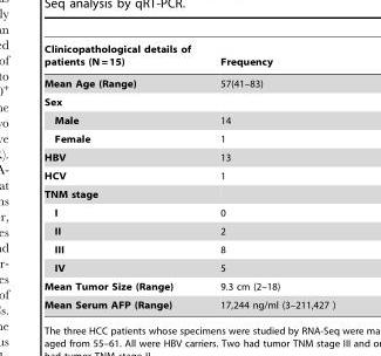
<table><thead><tr><td>Clinicopathological details of patients (N = 15)</td><td>Frequency</td></tr></thead><tbody><tr><td>Mean Age (Range)</td><td>57(41–83)</td></tr><tr><td colspan="2">Sex</td></tr><tr><td>Male</td><td>14</td></tr><tr><td>Female</td><td>1</td></tr><tr><td>HBV</td><td>13</td></tr><tr><td>HCV</td><td>1</td></tr><tr><td colspan="2">TNM stage</td></tr><tr><td>I</td><td>0</td></tr><tr><td>II</td><td>2</td></tr><tr><td>III</td><td>8</td></tr><tr><td>IV</td><td>5</td></tr><tr><td>Mean Tumor Size (Range)</td><td>9.3 cm (2–18)</td></tr><tr><td>Mean Serum AFP (Range)</td><td>17,244 ng/ml (3–211,427 )</td></tr></tbody></table>